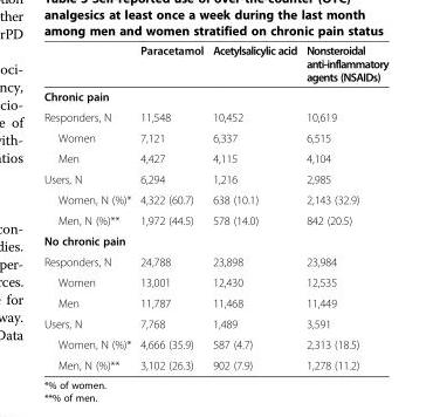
<table><thead><tr><td></td><td>Paracetamol</td><td>Acetylsalicylic acid</td><td>Nonsteroidal anti-inflammatory agents (NSAIDs)</td></tr></thead><tbody><tr><td colspan="4">Chronic pain</td></tr><tr><td>Responders, N</td><td>11,548</td><td>10,452</td><td>10,619</td></tr><tr><td>Women</td><td>7,121</td><td>6,337</td><td>6,515</td></tr><tr><td>Men</td><td>4,427</td><td>4,115</td><td>4,104</td></tr><tr><td>Users, N</td><td>6,294</td><td>1,216</td><td>2,985</td></tr><tr><td>Women, N (%)*</td><td>4,322 (60.7)</td><td>638 (10.1)</td><td>2,143 (32.9)</td></tr><tr><td>Men, N (%)**</td><td>1,972 (44.5)</td><td>578 (14.0)</td><td>842 (20.5)</td></tr><tr><td colspan="4">No chronic pain</td></tr><tr><td>Responders, N</td><td>24,788</td><td>23,898</td><td>23,984</td></tr><tr><td>Women</td><td>13,001</td><td>12,430</td><td>12,535</td></tr><tr><td>Men</td><td>11,787</td><td>11,468</td><td>11,449</td></tr><tr><td>Users, N</td><td>7,768</td><td>1,489</td><td>3,591</td></tr><tr><td>Women, N (%)*</td><td>4,666 (35.9)</td><td>587 (4.7)</td><td>2,313 (18.5)</td></tr><tr><td>Men, N (%)**</td><td>3,102 (26.3)</td><td>902 (7.9)</td><td>1,278 (11.2)</td></tr></tbody></table>